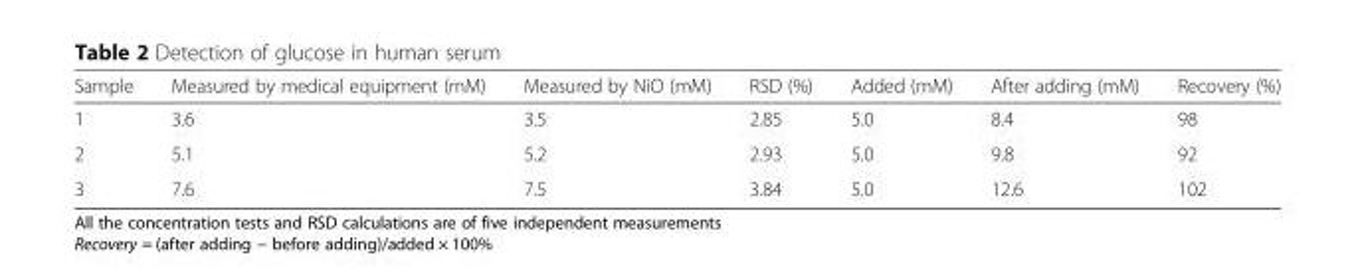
<table><thead><tr><td>Sample</td><td>Measured by medical equipment (mM)</td><td>Measured by NiO (mM)</td><td>RSD (%)</td><td>Added (mM)</td><td>After adding (mM)</td><td>Recovery (%)</td></tr></thead><tbody><tr><td>1</td><td>3.6</td><td>3.5</td><td>2.85</td><td>5.0</td><td>8.4</td><td>98</td></tr><tr><td>2</td><td>5.1</td><td>5.2</td><td>2.93</td><td>5.0</td><td>9.8</td><td>92</td></tr><tr><td>3</td><td>7.6</td><td>7.5</td><td>3.84</td><td>5.0</td><td>12.6</td><td>102</td></tr></tbody></table>